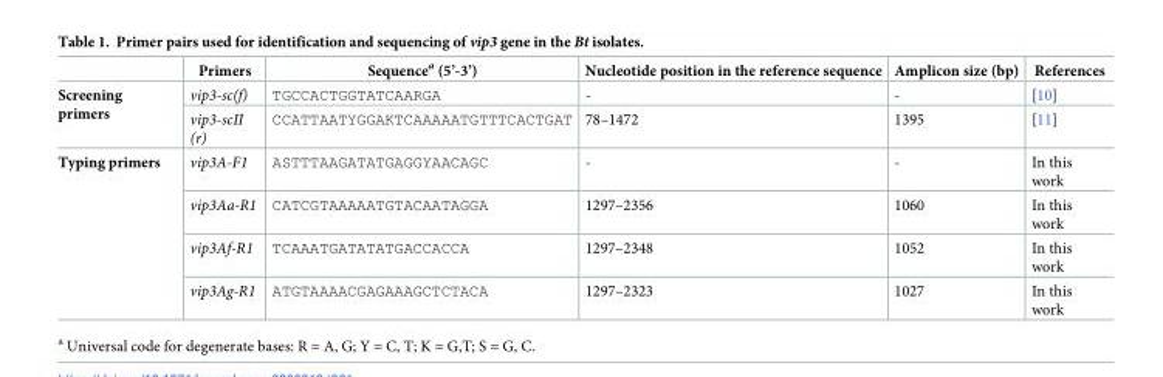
<table><thead><tr><td></td><td>Primers</td><td>Sequence<sup>a</sup> (5’-3’)</td><td>Nucleotide position in the reference sequence</td><td>Amplicon size (bp)</td><td>References</td></tr></thead><tbody><tr><td rowspan="2">Screening primers</td><td>vip3-sc(f)</td><td>TGCCACTGGTATCAARGA</td><td>-</td><td>-</td><td>[10]</td></tr><tr><td>vip3-scII (r)</td><td>CCATTAATYGGAKTCAAAAATGTTTCACTGAT</td><td>78–1472</td><td>1395</td><td>[11]</td></tr><tr><td rowspan="4">Typing primers</td><td>vip3A-F1</td><td>ASTTTAAGATATGAGGYAACAGC</td><td>-</td><td>-</td><td>In this work</td></tr><tr><td>vip3Aa-R1</td><td>CATCGTAAAAATGTACAATAGGA</td><td>1297–2356</td><td>1060</td><td>In this work</td></tr><tr><td>vip3Af-R1</td><td>TCAAATGATATATGACCACCA</td><td>1297–2348</td><td>1052</td><td>In this work</td></tr><tr><td>vip3Ag-R1</td><td>ATGTAAAACGAGAAAGCTCTACA</td><td>1297–2323</td><td>1027</td><td>In this work</td></tr></tbody></table>